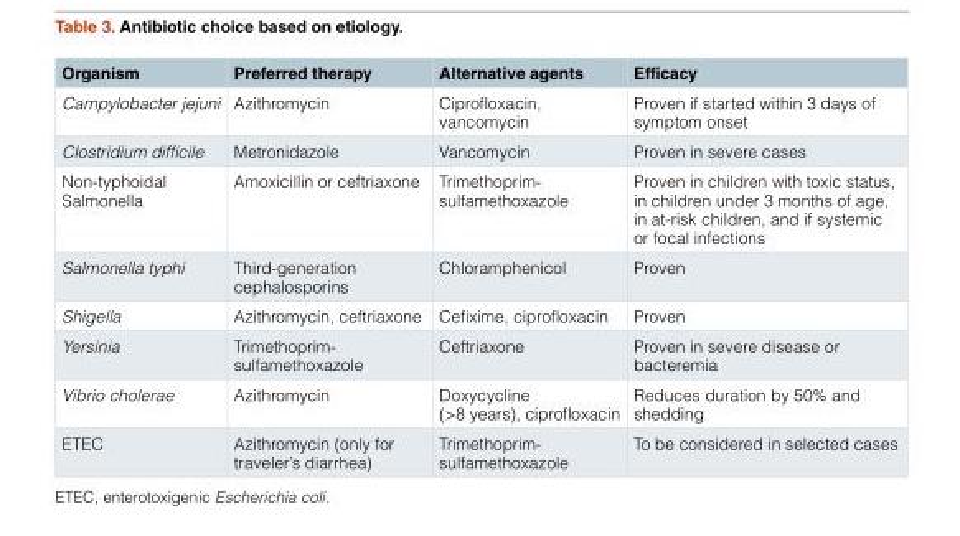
<table><thead><tr><td>Organism</td><td>Preferred therapy</td><td>Alternative agents</td><td>Efficacy</td></tr></thead><tbody><tr><td>Campylobacter jejuni</td><td>Azithromycin</td><td>Ciprofloxacin, vancomycin</td><td>Proven if started within 3 days of symptom onset</td></tr><tr><td>Clostridium difficile</td><td>Metronidazole</td><td>Vancomycin</td><td>Proven in severe cases</td></tr><tr><td>Non-typhoidal Salmonella</td><td>Amoxicillin or ceftriaxone</td><td>Trimethoprim- sulfamethoxazole</td><td>Proven in children with toxic status, in children under 3 months of age, in at-risk children, and if systemic or focal infections</td></tr><tr><td>Salmonella typhi</td><td>Third-generation cephalosporins</td><td>Chloramphenicol</td><td>Proven</td></tr><tr><td>Shigella</td><td>Azithromycin, ceftriaxone</td><td>Cefixime, ciprofloxacin</td><td>Proven</td></tr><tr><td>Yersinia</td><td>Trimethoprim- sulfamethoxazole</td><td>Ceftriaxone</td><td>Proven in severe disease or bacteremia</td></tr><tr><td>Vibrio cholerae</td><td>Azithromycin</td><td>Doxycycline (&gt;8 years), ciprofloxacin</td><td>Reduces duration by 50% and shedding</td></tr><tr><td>ETEC</td><td>Azithromycin (only for traveler’s diarrhea)</td><td>Trimethoprim- sulfamethoxazole</td><td>To be considered in selected cases</td></tr></tbody></table>